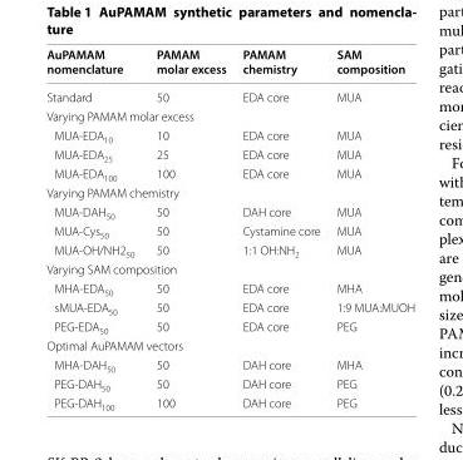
<table><thead><tr><td>AuPAMAM nomenclature</td><td>PAMAM molar excess</td><td>PAMAM chemistry</td><td>SAM composition</td></tr></thead><tbody><tr><td>Standard</td><td>50</td><td>EDA core</td><td>MUA</td></tr><tr><td colspan="4">Varying PAMAM molar excess</td></tr><tr><td>MUA‑EDA<sub>10</sub></td><td>10</td><td>EDA core</td><td>MUA</td></tr><tr><td>MUA‑EDA<sub>25</sub></td><td>25</td><td>EDA core</td><td>MUA</td></tr><tr><td>MUA‑EDA<sub>100</sub></td><td>100</td><td>EDA core</td><td>MUA</td></tr><tr><td colspan="4">Varying PAMAM chemistry</td></tr><tr><td>MUA‑DAH<sub>50</sub></td><td>50</td><td>DAH core</td><td>MUA</td></tr><tr><td>MUA‑Cys<sub>50</sub></td><td>50</td><td>Cystamine core</td><td>MUA</td></tr><tr><td>MUA‑OH/NH2<sub>50</sub></td><td>50</td><td>1:1 OH:NH<sub>2</sub></td><td>MUA</td></tr><tr><td colspan="4">Varying SAM composition</td></tr><tr><td>MHA‑EDA<sub>50</sub></td><td>50</td><td>EDA core</td><td>MHA</td></tr><tr><td>sMUA‑EDA<sub>50</sub></td><td>50</td><td>EDA core</td><td>1:9 MUA:MUOH</td></tr><tr><td>PEG‑EDA<sub>50</sub></td><td>50</td><td>EDA core</td><td>PEG</td></tr><tr><td colspan="4">Optimal AuPAMAM vectors</td></tr><tr><td>MHA‑DAH<sub>50</sub></td><td>50</td><td>DAH core</td><td>MHA</td></tr><tr><td>PEG‑DAH<sub>50</sub></td><td>50</td><td>DAH core</td><td>PEG</td></tr><tr><td>PEG‑DAH<sub>100</sub></td><td>100</td><td>DAH core</td><td>PEG</td></tr></tbody></table>